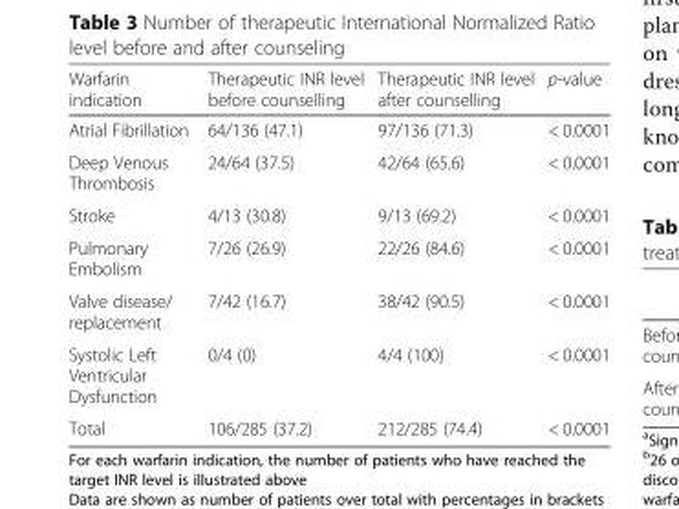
<table><thead><tr><td>Warfarin indication</td><td>Therapeutic INR level before counselling</td><td>Therapeutic INR level after counselling</td><td>p-value</td></tr></thead><tbody><tr><td>Atrial Fibrillation</td><td>64/136 (47.1)</td><td>97/136 (71.3)</td><td>&lt; 0.0001</td></tr><tr><td>Deep Venous Thrombosis</td><td>24/64 (37.5)</td><td>42/64 (65.6)</td><td>&lt; 0.0001</td></tr><tr><td>Stroke</td><td>4/13 (30.8)</td><td>9/13 (69.2)</td><td>&lt; 0.0001</td></tr><tr><td>Pulmonary Embolism</td><td>7/26 (26.9)</td><td>22/26 (84.6)</td><td>&lt; 0.0001</td></tr><tr><td>Valve disease/ replacement</td><td>7/42 (16.7)</td><td>38/42 (90.5)</td><td>&lt; 0.0001</td></tr><tr><td>Systolic Left Ventricular Dysfunction</td><td>0/4 (0)</td><td>4/4 (100)</td><td>&lt; 0.0001</td></tr><tr><td>Total</td><td>106/285 (37.2)</td><td>212/285 (74.4)</td><td>&lt; 0.0001</td></tr></tbody></table>